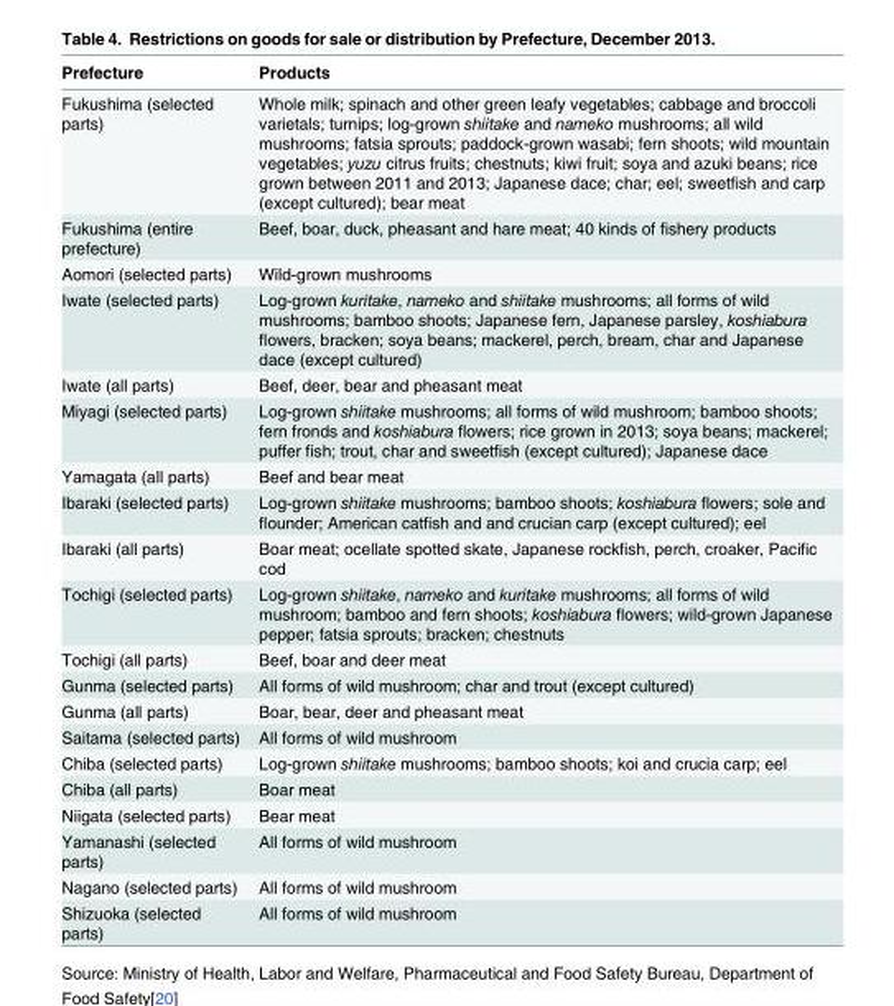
<table><thead><tr><td>Prefecture</td><td>Products</td></tr></thead><tbody><tr><td>Fukushima (selected parts)</td><td>Whole milk; spinach and other green leafy vegetables; cabbage and broccoli varietals; turnips; log-grown shiitake and nameko mushrooms; all wild mushrooms; fatsia sprouts; paddock-grown wasabi; fern shoots; wild mountain vegetables; yuzu citrus fruits; chestnuts; kiwi fruit; soya and azuki beans; rice grown between 2011 and 2013; Japanese dace; char; eel; sweetfish and carp (except cultured); bear meat</td></tr><tr><td>Fukushima (entire prefecture)</td><td>Beef, boar, duck, pheasant and hare meat; 40 kinds of fishery products</td></tr><tr><td>Aomori (selected parts)</td><td>Wild-grown mushrooms</td></tr><tr><td>Iwate (selected parts)</td><td>Log-grown kuritake, nameko and shiitake mushrooms; all forms of wild mushrooms; bamboo shoots; Japanese fern, Japanese parsley, koshiabura flowers, bracken; soya beans; mackerel, perch, bream, char and Japanese dace (except cultured)</td></tr><tr><td>Iwate (all parts)</td><td>Beef, deer, bear and pheasant meat</td></tr><tr><td>Miyagi (selected parts)</td><td>Log-grown shiitake mushrooms; all forms of wild mushroom; bamboo shoots; fern fronds and koshiabura flowers; rice grown in 2013; soya beans; mackerel; puffer fish; trout, char and sweetfish (except cultured); Japanese dace</td></tr><tr><td>Yamagata (all parts)</td><td>Beef and bear meat</td></tr><tr><td>Ibaraki (selected parts)</td><td>Log-grown shiitake mushrooms; bamboo shoots; koshiabura flowers; sole and flounder; American catfish and and crucian carp (except cultured); eel</td></tr><tr><td>Ibaraki (all parts)</td><td>Boar meat; ocellate spotted skate, Japanese rockfish, perch, croaker, Pacific cod</td></tr><tr><td>Tochigi (selected parts)</td><td>Log-grown shiitake, nameko and kuritake mushrooms; all forms of wild mushroom; bamboo and fern shoots; koshiabura flowers; wild-grown Japanese pepper; fatsia sprouts; bracken; chestnuts</td></tr><tr><td>Tochigi (all parts)</td><td>Beef, boar and deer meat</td></tr><tr><td>Gunma (selected parts)</td><td>All forms of wild mushroom; char and trout (except cultured)</td></tr><tr><td>Gunma (all parts)</td><td>Boar, bear, deer and pheasant meat</td></tr><tr><td>Saitama (selected parts)</td><td>All forms of wild mushroom</td></tr><tr><td>Chiba (selected parts)</td><td>Log-grown shiitake mushrooms; bamboo shoots; koi and crucia carp; eel</td></tr><tr><td>Chiba (all parts)</td><td>Boar meat</td></tr><tr><td>Niigata (selected parts)</td><td>Bear meat</td></tr><tr><td>Yamanashi (selected parts)</td><td>All forms of wild mushroom</td></tr><tr><td>Nagano (selected parts)</td><td>All forms of wild mushroom</td></tr><tr><td>Shizuoka (selected parts)</td><td>All forms of wild mushroom</td></tr></tbody></table>